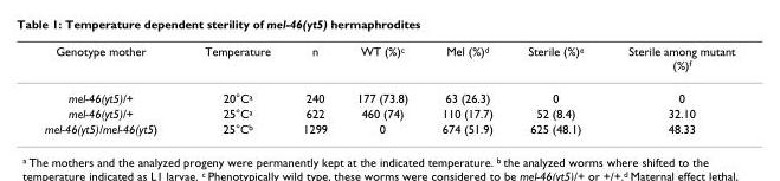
<table><thead><tr><td>Genotype mother</td><td>Temperature</td><td>n</td><td>WT (%)<sup>c</sup></td><td>Mel (%)<sup>d</sup></td><td>Sterile (%)<sup>e</sup></td><td>Sterile among mutant (%)<sup>f</sup></td></tr></thead><tbody><tr><td>mel-46(yt5)/+</td><td>20°C<sup>a</sup></td><td>240</td><td>177 (73.8)</td><td>63 (26.3)</td><td>0</td><td>0</td></tr><tr><td>mel-46(yt5)/+</td><td>25°C<sup>a</sup></td><td>622</td><td>460 (74)</td><td>110 (17.7)</td><td>52 (8.4)</td><td>32.10</td></tr><tr><td>mel-46(yt5)/mel-46(yt5)</td><td>25°C<sup>b</sup></td><td>1299</td><td>0</td><td>674 (51.9)</td><td>625 (48.1)</td><td>48.33</td></tr></tbody></table>